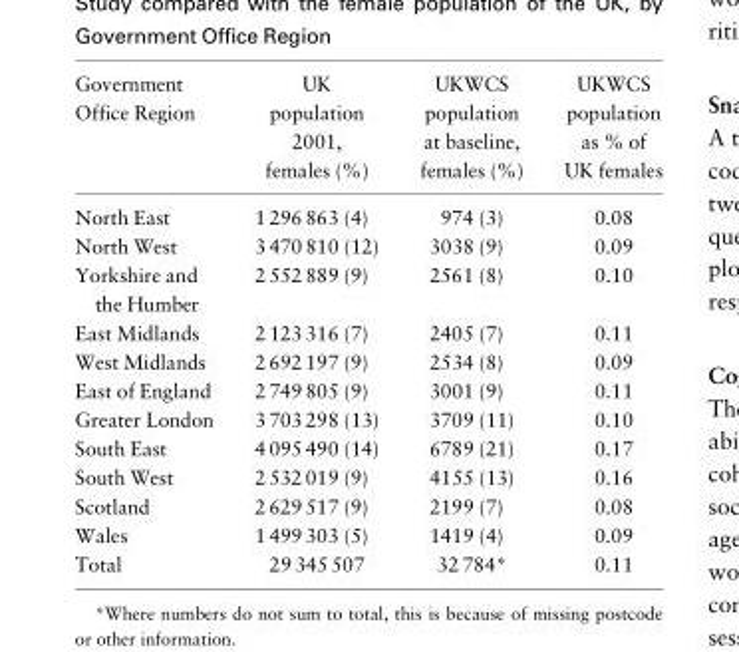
<table><thead><tr><td>Government Office Region</td><td>UK population 2001, females (%)</td><td>UKWCS population at baseline, females (%)</td><td>UKWCS population as % of UK females</td></tr></thead><tbody><tr><td>North East</td><td>1 296 863 (4)</td><td>974 (3)</td><td>0.08</td></tr><tr><td>North West</td><td>3 470 810 (12)</td><td>3038 (9)</td><td>0.09</td></tr><tr><td>Yorkshire and the Humber</td><td>2 552 889 (9)</td><td>2561 (8)</td><td>0.10</td></tr><tr><td>East Midlands</td><td>2 123 316 (7)</td><td>2405 (7)</td><td>0.11</td></tr><tr><td>West Midlands</td><td>2 692 197 (9)</td><td>2534 (8)</td><td>0.09</td></tr><tr><td>East of England</td><td>2 749 805 (9)</td><td>3001 (9)</td><td>0.11</td></tr><tr><td>Greater London</td><td>3 703 298 (13)</td><td>3709 (11)</td><td>0.10</td></tr><tr><td>South East</td><td>4 095 490 (14)</td><td>6789 (21)</td><td>0.17</td></tr><tr><td>South West</td><td>2 532 019 (9)</td><td>4155 (13)</td><td>0.16</td></tr><tr><td>Scotland</td><td>2 629 517 (9)</td><td>2199 (7)</td><td>0.08</td></tr><tr><td>Wales</td><td>1 499 303 (5)</td><td>1419 (4)</td><td>0.09</td></tr><tr><td>Total</td><td>29 345 507</td><td>32 784*</td><td>0.11</td></tr></tbody></table>